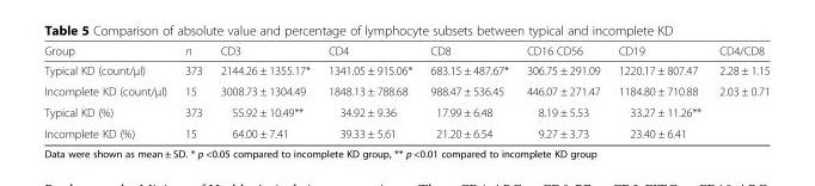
<table><thead><tr><td>Group</td><td>n</td><td>CD3</td><td>CD4</td><td>CD8</td><td>CD16 CD56</td><td>CD19</td><td>CD4/CD8</td></tr></thead><tbody><tr><td>Typical KD (count/μl)</td><td>373</td><td>2144.26 ± 1355.17*</td><td>1341.05 ± 915.06*</td><td>683.15 ± 487.67*</td><td>306.75 ± 291.09</td><td>1220.17 ± 807.47</td><td>2.28 ± 1.15</td></tr><tr><td>Incomplete KD (count/μl)</td><td>15</td><td>3008.73 ± 1304.49</td><td>1848.13 ± 788.68</td><td>988.47 ± 536.45</td><td>446.07 ± 271.47</td><td>1184.80 ± 710.88</td><td>2.03 ± 0.71</td></tr><tr><td>Typical KD (%)</td><td>373</td><td>55.92 ± 10.49**</td><td>34.92 ± 9.36</td><td>17.99 ± 6.48</td><td>8.19 ± 5.53</td><td>33.27 ± 11.26**</td><td></td></tr><tr><td>Incomplete KD (%)</td><td>15</td><td>64.00 ± 7.41</td><td>39.33 ± 5.61</td><td>21.20 ± 6.54</td><td>9.27 ± 3.73</td><td>23.40 ± 6.41</td><td></td></tr></tbody></table>